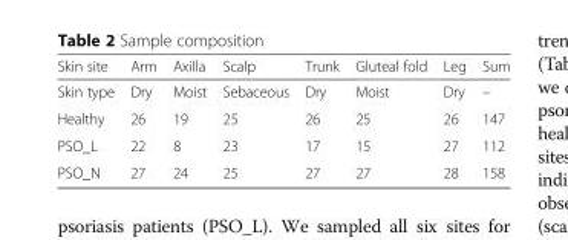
<table><thead><tr><td>Skin site</td><td>Arm</td><td>Axilla</td><td>Scalp</td><td>Trunk</td><td>Gluteal fold</td><td>Leg</td><td>Sum</td></tr></thead><tbody><tr><td>Skin type</td><td>Dry</td><td>Moist</td><td>Sebaceous</td><td>Dry</td><td>Moist</td><td>Dry</td><td>–</td></tr><tr><td>Healthy</td><td>26</td><td>19</td><td>25</td><td>26</td><td>25</td><td>26</td><td>147</td></tr><tr><td>PSO_L</td><td>22</td><td>8</td><td>23</td><td>17</td><td>15</td><td>27</td><td>112</td></tr><tr><td>PSO_N</td><td>27</td><td>24</td><td>25</td><td>27</td><td>27</td><td>28</td><td>158</td></tr></tbody></table>